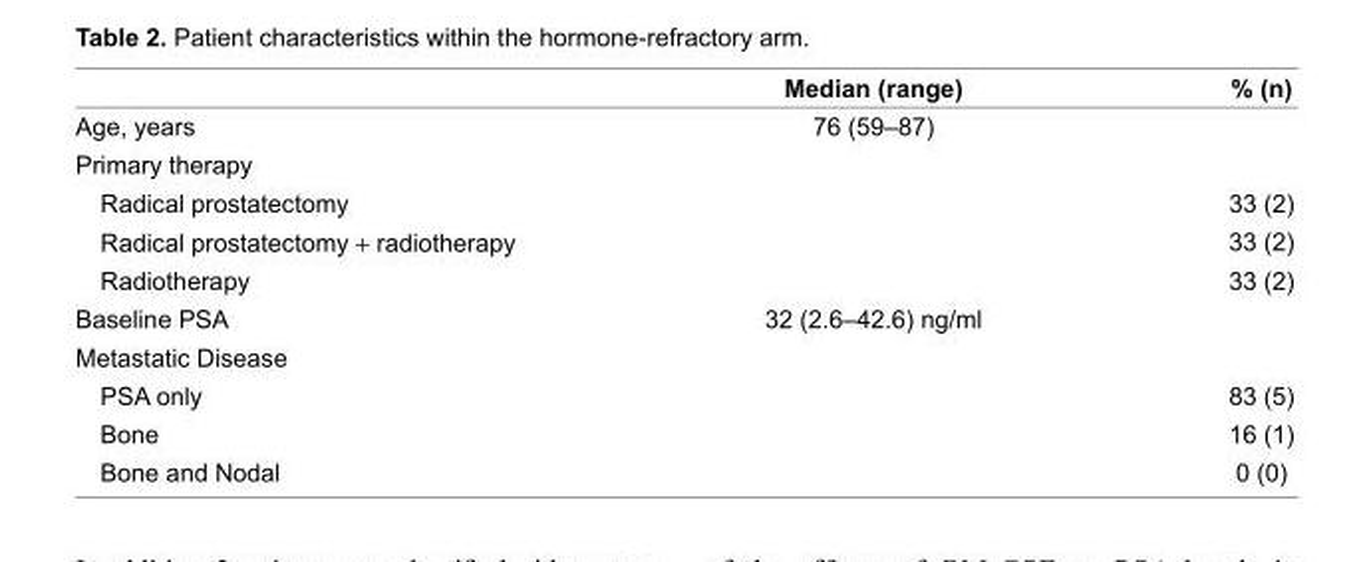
<table><thead><tr><td></td><td>Median (range)</td><td>% (n)</td></tr></thead><tbody><tr><td>Age, years</td><td>76 (59–87)</td><td></td></tr><tr><td colspan="3">Primary therapy</td></tr><tr><td>Radical prostatectomy</td><td></td><td>33 (2)</td></tr><tr><td>Radical prostatectomy + radiotherapy</td><td></td><td>33 (2)</td></tr><tr><td>Radiotherapy</td><td></td><td>33 (2)</td></tr><tr><td>Baseline PSA</td><td>32 (2.6–42.6) ng/ml</td><td></td></tr><tr><td colspan="3">Metastatic Disease</td></tr><tr><td>PSA only</td><td></td><td>83 (5)</td></tr><tr><td>Bone</td><td></td><td>16 (1)</td></tr><tr><td>Bone and Nodal</td><td></td><td>0 (0)</td></tr></tbody></table>